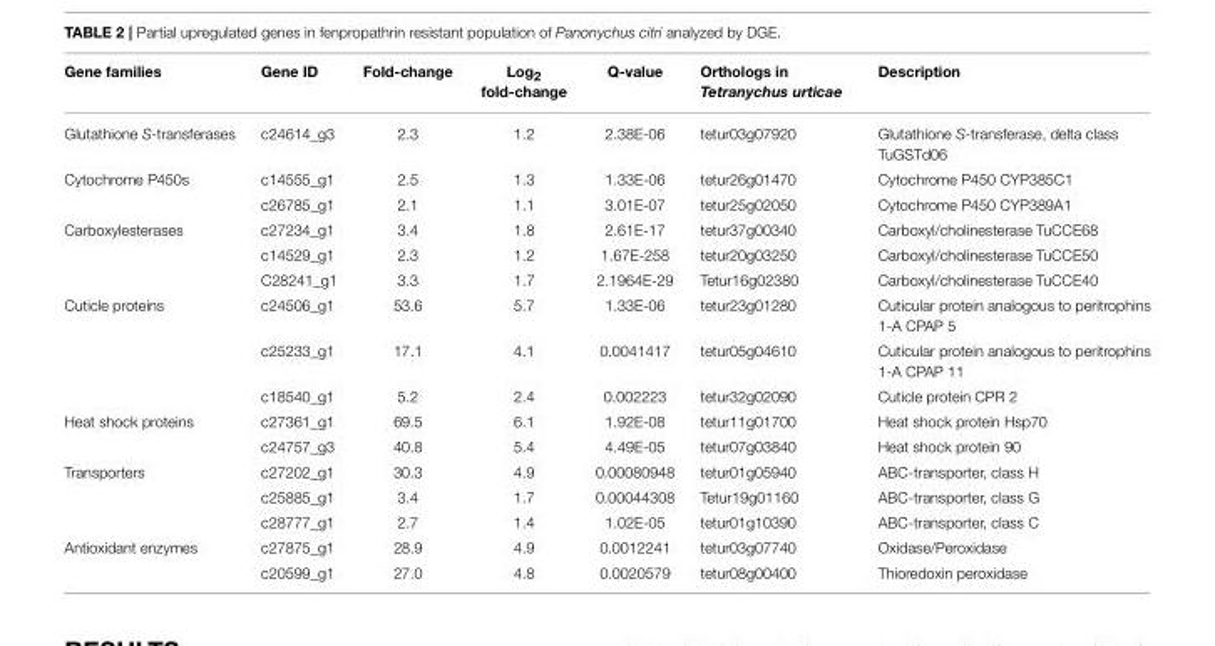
<table><thead><tr><td>Gene families</td><td>Gene ID</td><td>Fold-change</td><td>Log<sub>2</sub> fold-change</td><td>Q-value</td><td>Orthologs in Tetranychus urticae</td><td>Description</td></tr></thead><tbody><tr><td>Glutathione S-transferases</td><td>c24614_g3</td><td>2.3</td><td>1.2</td><td>2.38E-06</td><td>tetur03g07920</td><td>Glutathione S-transferase, delta class TuGSTd06</td></tr><tr><td rowspan="2">Cytochrome P450s</td><td>c14555_g1</td><td>2.5</td><td>1.3</td><td>1.33E-06</td><td>tetur26g01470</td><td>Cytochrome P450 CYP385C1</td></tr><tr><td>c26785_g1</td><td>2.1</td><td>1.1</td><td>3.01E-07</td><td>tetur25g02050</td><td>Cytochrome P450 CYP389A1</td></tr><tr><td rowspan="3">Carboxylesterases</td><td>c27234_g1</td><td>3.4</td><td>1.8</td><td>2.61E-17</td><td>tetur37g00340</td><td>Carboxyl/cholinesterase TuCCE68</td></tr><tr><td>c14529_g1</td><td>2.3</td><td>1.2</td><td>1.67E-258</td><td>tetur20g03250</td><td>Carboxyl/cholinesterase TuCCE50</td></tr><tr><td>C28241_g1</td><td>3.3</td><td>1.7</td><td>2.1964E-29</td><td>Tetur16g02380</td><td>Carboxyl/cholinesterase TuCCE40</td></tr><tr><td rowspan="3">Cuticle proteins</td><td>c24506_g1</td><td>53.6</td><td>5.7</td><td>1.33E-06</td><td>tetur23g01280</td><td>Cuticular protein analogous to peritrophins 1-A CPAP 5</td></tr><tr><td>c25233_g1</td><td>17.1</td><td>4.1</td><td>0.0041417</td><td>tetur05g04610</td><td>Cuticular protein analogous to peritrophins 1-A CPAP 11</td></tr><tr><td>c18540_g1</td><td>5.2</td><td>2.4</td><td>0.002223</td><td>tetur32g02090</td><td>Cuticle protein CPR 2</td></tr><tr><td rowspan="2">Heat shock proteins</td><td>c27361_g1</td><td>69.5</td><td>6.1</td><td>1.92E-08</td><td>tetur11g01700</td><td>Heat shock protein Hsp70</td></tr><tr><td>c24757_g3</td><td>40.8</td><td>5.4</td><td>4.49E-05</td><td>tetur07g03840</td><td>Heat shock protein 90</td></tr><tr><td rowspan="3">Transporters</td><td>c27202_g1</td><td>30.3</td><td>4.9</td><td>0.00080948</td><td>tetur01g05940</td><td>ABC-transporter, class H</td></tr><tr><td>c25885_g1</td><td>3.4</td><td>1.7</td><td>0.00044308</td><td>Tetur19g01160</td><td>ABC-transporter, class G</td></tr><tr><td>c28777_g1</td><td>2.7</td><td>1.4</td><td>1.02E-05</td><td>tetur01g10390</td><td>ABC-transporter, class C</td></tr><tr><td rowspan="2">Antioxidant enzymes</td><td>c27875_g1</td><td>28.9</td><td>4.9</td><td>0.0012241</td><td>tetur03g07740</td><td>Oxidase/Peroxidase</td></tr><tr><td>c20599_g1</td><td>27.0</td><td>4.8</td><td>0.0020579</td><td>tetur08g00400</td><td>Thioredoxin peroxidase</td></tr></tbody></table>